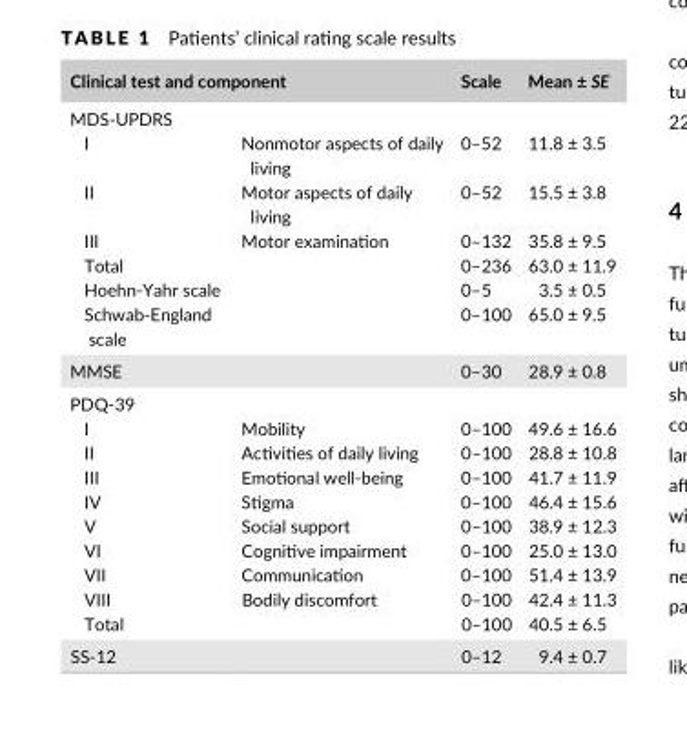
<table><thead><tr><td colspan="2">Clinical test and component</td><td>Scale</td><td>Mean ± SE</td></tr><tr><td colspan="4">MDS- UPDRS</td></tr><tr><td>I</td><td>Nonmotor aspects of daily living</td><td>0–52</td><td>11.8 ± 3.5</td></tr></thead><tbody><tr><td>II</td><td>Motor aspects of daily living</td><td>0–52</td><td>15.5 ± 3.8</td></tr><tr><td>III</td><td>Motor examination</td><td>0–132</td><td>35.8 ± 9.5</td></tr><tr><td>Total</td><td></td><td>0–236</td><td>63.0 ± 11.9</td></tr><tr><td>Hoehn- Yahr scale</td><td></td><td>0–5</td><td>3.5 ± 0.5</td></tr><tr><td>Schwab- England scale</td><td></td><td>0–100</td><td>65.0 ± 9.5</td></tr><tr><td colspan="2">MMSE</td><td>0–30</td><td>28.9 ± 0.8</td></tr><tr><td colspan="4">PDQ- 39</td></tr><tr><td>I</td><td>Mobility</td><td>0–100</td><td>49.6 ± 16.6</td></tr><tr><td>II</td><td>Activities of daily living</td><td>0–100</td><td>28.8 ± 10.8</td></tr><tr><td>III</td><td>Emotional well- being</td><td>0–100</td><td>41.7 ± 11.9</td></tr><tr><td>IV</td><td>Stigma</td><td>0–100</td><td>46.4 ± 15.6</td></tr><tr><td>V</td><td>Social support</td><td>0–100</td><td>38.9 ± 12.3</td></tr><tr><td>VI</td><td>Cognitive impairment</td><td>0–100</td><td>25.0 ± 13.0</td></tr><tr><td>VII</td><td>Communication</td><td>0–100</td><td>51.4 ± 13.9</td></tr><tr><td>VIII</td><td>Bodily discomfort</td><td>0–100</td><td>42.4 ± 11.3</td></tr><tr><td>Total</td><td></td><td>0–100</td><td>40.5 ± 6.5</td></tr><tr><td colspan="2">SS- 12</td><td>0–12</td><td>9.4 ± 0.7</td></tr></tbody></table>